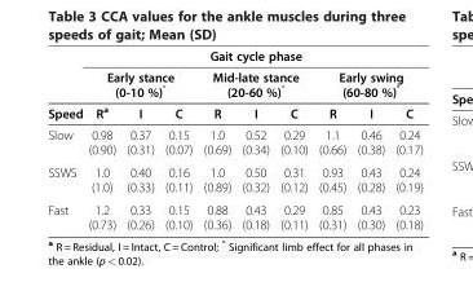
<table><thead><tr><td rowspan="3">Speed</td><td colspan="9">Gait cycle phase</td></tr><tr><td colspan="3">Early stance (0-10 %)*</td><td colspan="3">Mid-late stance (20-60 %)*</td><td colspan="3">Early swing (60-80 %)*</td></tr><tr><td>R<sup>a</sup></td><td>I</td><td>C</td><td>R</td><td>I</td><td>C</td><td>R</td><td>I</td><td>C</td></tr></thead><tbody><tr><td>Slow</td><td>0.98 (0.90)</td><td>0.37 (0.31)</td><td>0.15 (0.07)</td><td>1.0 (0.69)</td><td>0.52 (0.34)</td><td>0.29 (0.10)</td><td>1.1 (0.66)</td><td>0.46 (0.38)</td><td>0.24 (0.17)</td></tr><tr><td>SSWS</td><td>1.0 (1.0)</td><td>0.40 (0.33)</td><td>0.16 (0.11)</td><td>1.0 (0.89)</td><td>0.50 (0.32)</td><td>0.31 (0.12)</td><td>0.93 (0.45)</td><td>0.43 (0.28)</td><td>0.24 (0.19)</td></tr><tr><td>Fast</td><td>1.2 (0.73)</td><td>0.33 (0.26)</td><td>0.15 (0.10)</td><td>0.88 (0.36)</td><td>0.43 (0.18)</td><td>0.29 (0.11)</td><td>0.85 (0.31)</td><td>0.43 (0.30)</td><td>0.23 (0.18)</td></tr></tbody></table>